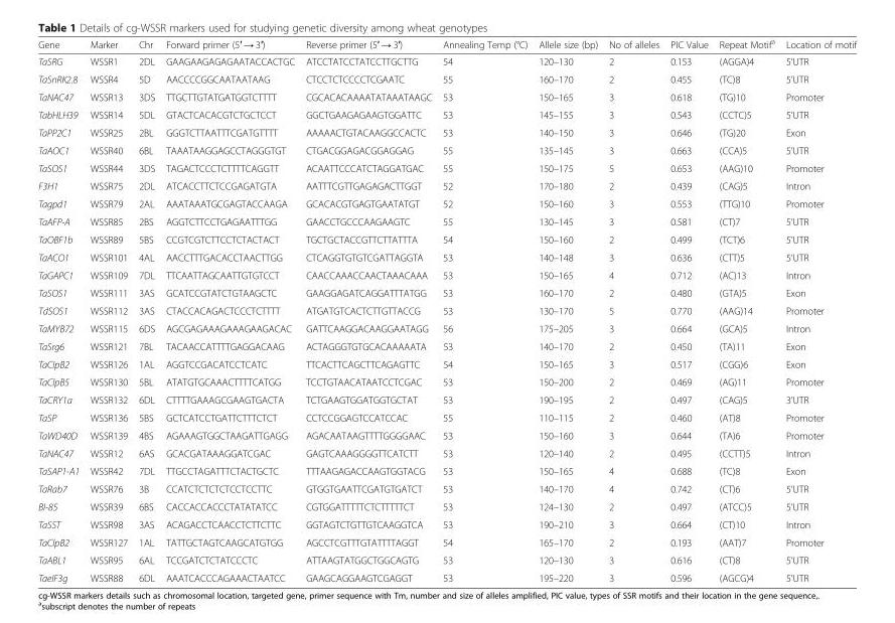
<table><thead><tr><td>Gene</td><td>Marker</td><td>Chr</td><td>Forward primer (5′ → 3′)</td><td>Reverse primer (5′ → 3′)</td><td>Annealing Temp (°C)</td><td>Allele size (bp)</td><td>No of alleles</td><td>PIC Value</td><td>Repeat Motif<sup>a</sup></td><td>Location of motif</td></tr></thead><tbody><tr><td>TaSRG</td><td>WSSR1</td><td>2DL</td><td>GAAGAAGAGAGAATACCACTGC</td><td>ATCCTATCCTATCCTTGCTTG</td><td>54</td><td>120–130</td><td>2</td><td>0.153</td><td>(AGGA)4</td><td>5’UTR</td></tr><tr><td>TaSnRK2.8</td><td>WSSR4</td><td>5D</td><td>AACCCCGGCAATAATAAG</td><td>CTCCTCTCCCCTCGAATC</td><td>55</td><td>160–170</td><td>2</td><td>0.455</td><td>(TC)8</td><td>5’UTR</td></tr><tr><td>TaNAC47</td><td>WSSR13</td><td>3DS</td><td>TTGCTTGTATGATGGTCTTTT</td><td>CGCACACAAAATATAAATAAGC</td><td>53</td><td>150–165</td><td>3</td><td>0.618</td><td>(TG)10</td><td>Promoter</td></tr><tr><td>TabHLH39</td><td>WSSR14</td><td>5DL</td><td>GTACTCACACGTCTGCTCCT</td><td>GGCTGAAGAGAAGTGGATTC</td><td>53</td><td>145–155</td><td>3</td><td>0.543</td><td>(CCTC)5</td><td>5’UTR</td></tr><tr><td>TaPP2C1</td><td>WSSR25</td><td>2BL</td><td>GGGTCTTAATTTCGATGTTTT</td><td>AAAAACTGTACAAGGCCACTC</td><td>53</td><td>140–150</td><td>3</td><td>0.646</td><td>(TG)20</td><td>Exon</td></tr><tr><td>TaAOC1</td><td>WSSR40</td><td>6BL</td><td>TAAATAAGGAGCCTAGGGTGT</td><td>CTGACGGAGACGGAGGAG</td><td>55</td><td>135–145</td><td>3</td><td>0.663</td><td>(CCA)5</td><td>5’UTR</td></tr><tr><td>TaSOS1</td><td>WSSR44</td><td>3DS</td><td>TAGACTCCCTCTTTTCAGGTT</td><td>ACAATTCCCATCTAGGATGAC</td><td>55</td><td>150–175</td><td>5</td><td>0.653</td><td>(AAG)10</td><td>Promoter</td></tr><tr><td>F3H1</td><td>WSSR75</td><td>2DL</td><td>ATCACCTTCTCCGAGATGTA</td><td>AATTTCGTTGAGAGACTTGGT</td><td>52</td><td>170–180</td><td>2</td><td>0.439</td><td>(CAG)5</td><td>Intron</td></tr><tr><td>Tagpd1</td><td>WSSR79</td><td>2AL</td><td>AAATAAATGCGAGTACCAAGA</td><td>GCACACGTGAGTGAATATGT</td><td>52</td><td>150–160</td><td>3</td><td>0.553</td><td>(TTG)10</td><td>Promoter</td></tr><tr><td>TaAFP-A</td><td>WSSR85</td><td>2BS</td><td>AGGTCTTCCTGAGAATTTGG</td><td>GAACCTGCCCAAGAAGTC</td><td>55</td><td>130–145</td><td>3</td><td>0.581</td><td>(CT)7</td><td>5’UTR</td></tr><tr><td>TaOBF1b</td><td>WSSR89</td><td>5BS</td><td>CCGTCGTCTTCCTCTACTACT</td><td>TGCTGCTACCGTTCTTATTTA</td><td>54</td><td>150–160</td><td>2</td><td>0.499</td><td>(TCT)6</td><td>5’UTR</td></tr><tr><td>TaACO1</td><td>WSSR101</td><td>4AL</td><td>AACCTTTGACACCTAACTTGG</td><td>CTCAGGTGTGTCGATTAGGTA</td><td>53</td><td>140–148</td><td>3</td><td>0.636</td><td>(CTT)5</td><td>5’UTR</td></tr><tr><td>TaGAPC1</td><td>WSSR109</td><td>7DL</td><td>TTCAATTAGCAATTGTGTCCT</td><td>CAACCAAACCAACTAAACAAA</td><td>53</td><td>150–165</td><td>4</td><td>0.712</td><td>(AC)13</td><td>Intron</td></tr><tr><td>TaSOS1</td><td>WSSR111</td><td>3AS</td><td>GCATCCGTATCTGTAAGCTC</td><td>GAAGGAGATCAGGATTTATGG</td><td>53</td><td>160–170</td><td>2</td><td>0.480</td><td>(GTA)5</td><td>Exon</td></tr><tr><td>TdSOS1</td><td>WSSR112</td><td>3AS</td><td>CTACCACAGACTCCCTCTTTT</td><td>ATGATGTCACTCTTGTTACCG</td><td>53</td><td>130–170</td><td>5</td><td>0.770</td><td>(AAG)14</td><td>Promoter</td></tr><tr><td>TaMYB72</td><td>WSSR115</td><td>6DS</td><td>AGCGAGAAAGAAAGAAGACAC</td><td>GATTCAAGGACAAGGAATAGG</td><td>56</td><td>175–205</td><td>3</td><td>0.664</td><td>(GCA)5</td><td>Intron</td></tr><tr><td>TaSrg6</td><td>WSSR121</td><td>7BL</td><td>TACAACCATTTTGAGGACAAG</td><td>ACTAGGGTGTGCACAAAAATA</td><td>53</td><td>140–170</td><td>2</td><td>0.450</td><td>(TA)11</td><td>Exon</td></tr><tr><td>TaClpB2</td><td>WSSR126</td><td>1AL</td><td>AGGTCCGACATCCTCATC</td><td>TTCACTTCAGCTTCAGAGTTC</td><td>54</td><td>150–165</td><td>3</td><td>0.517</td><td>(CGG)6</td><td>Exon</td></tr><tr><td>TaClpB5</td><td>WSSR130</td><td>5BL</td><td>ATATGTGCAAACTTTTCATGG</td><td>TCCTGTAACATAATCCTCGAC</td><td>53</td><td>150–200</td><td>2</td><td>0.469</td><td>(AG)11</td><td>Promoter</td></tr><tr><td>TaCRY1a</td><td>WSSR132</td><td>6DL</td><td>CTTTTGAAAGCGAAGTGACTA</td><td>TCTGAAGTGGATGGTGCTAT</td><td>53</td><td>190–195</td><td>2</td><td>0.497</td><td>(CAG)5</td><td>3’UTR</td></tr><tr><td>TaSP</td><td>WSSR136</td><td>5BS</td><td>GCTCATCCTGATTCTTTCTCT</td><td>CCTCCGGAGTCCATCCAC</td><td>55</td><td>110–115</td><td>2</td><td>0.460</td><td>(AT)8</td><td>Promoter</td></tr><tr><td>TaWD40D</td><td>WSSR139</td><td>4BS</td><td>AGAAAGTGGCTAAGATTGAGG</td><td>AGACAATAAGTTTTGGGGAAC</td><td>53</td><td>150–160</td><td>3</td><td>0.644</td><td>(TA)6</td><td>Promoter</td></tr><tr><td>TaNAC47</td><td>WSSR12</td><td>6AS</td><td>GCACGATAAAGGATCGAC</td><td>GAGTCAAAGGGGTTCATCTT</td><td>53</td><td>120–140</td><td>2</td><td>0.495</td><td>(CCTT)5</td><td>Intron</td></tr><tr><td>TaSAP1-A1</td><td>WSSR42</td><td>7DL</td><td>TTGCCTAGATTTCTACTGCTC</td><td>TTTAAGAGACCAAGTGGTACG</td><td>53</td><td>150–165</td><td>4</td><td>0.688</td><td>(TC)8</td><td>Exon</td></tr><tr><td>TaRab7</td><td>WSSR76</td><td>3B</td><td>CCATCTCTCTCTCCTCCTTC</td><td>GTGGTGAATTCGATGTGATCT</td><td>53</td><td>140–170</td><td>4</td><td>0.742</td><td>(CT)6</td><td>5’UTR</td></tr><tr><td>BI-85</td><td>WSSR39</td><td>6BS</td><td>CACCACCACCCTATATATCC</td><td>CGTGGATTTTTCTCTTTTTCT</td><td>53</td><td>124–130</td><td>2</td><td>0.497</td><td>(ATCC)5</td><td>5’UTR</td></tr><tr><td>TaSST</td><td>WSSR98</td><td>3AS</td><td>ACAGACCTCAACCTCTTCTTC</td><td>GGTAGTCTGTTGTCAAGGTCA</td><td>53</td><td>190–210</td><td>3</td><td>0.664</td><td>(CT)10</td><td>Intron</td></tr><tr><td>TaClpB2</td><td>WSSR127</td><td>1AL</td><td>TATTGCTAGTCAAGCATGTGG</td><td>AGCCTCGTTTGTATTTTAGGT</td><td>54</td><td>165–170</td><td>2</td><td>0.193</td><td>(AAT)7</td><td>Promoter</td></tr><tr><td>TaABL1</td><td>WSSR95</td><td>6AL</td><td>TCCGATCTCTATCCCTC</td><td>ATTAAGTATGGCTGGCAGTG</td><td>53</td><td>120–130</td><td>3</td><td>0.616</td><td>(CT)8</td><td>5’UTR</td></tr><tr><td>TaeIF3g</td><td>WSSR88</td><td>6DL</td><td>AAATCACCCAGAAACTAATCC</td><td>GAAGCAGGAAGTCGAGGT</td><td>53</td><td>195–220</td><td>3</td><td>0.596</td><td>(AGCG)4</td><td>5’UTR</td></tr></tbody></table>